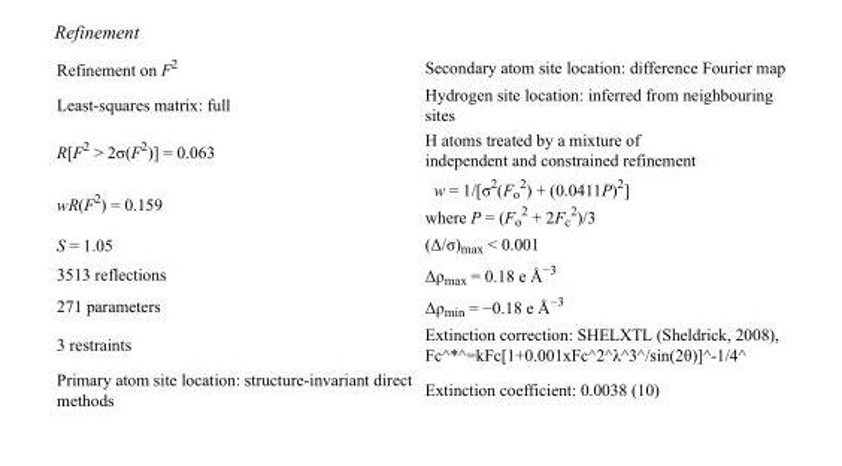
<table><tbody><tr><td>Refinement on F<sup>2</sup></td><td>Secondary atom site location: difference Fourier map</td></tr><tr><td>Least-squares matrix: full</td><td>Hydrogen site location: inferred from neighbouring sites</td></tr><tr><td>R[F<sup>2</sup> &gt; 2σ(F<sup>2</sup>)] = 0.063</td><td>H atoms treated by a mixture of independent and constrained refinement</td></tr><tr><td>wR(F<sup>2</sup>) = 0.159</td><td>w = 1/[σ<sup>2</sup>(F<sub>o</sub> <sup>2</sup>) + (0.0411P)<sup>2</sup>] where P = (F<sub>o</sub> <sup>2</sup> + 2F<sub>c</sub> <sup>2</sup>)/3</td></tr><tr><td>S = 1.05</td><td>(Δ/σ)<sub>max</sub> &lt; 0.001</td></tr><tr><td>3513 reflections</td><td>Δρ<sub>max</sub> = 0.18 e Å<sup>−3</sup></td></tr><tr><td>271 parameters</td><td>Δρ<sub>min</sub> = −0.18 e Å<sup>−3</sup></td></tr><tr><td>3 restraints</td><td>Extinction correction: SHELXTL (Sheldrick, 2008), Fc^*^=kFc[1+0.001xFc^2^λ^3^/sin(2θ)]^-1/4^</td></tr><tr><td>Primary atom site location: structure-invariant direct methods</td><td>Extinction coefficient: 0.0038 (10)</td></tr></tbody></table>